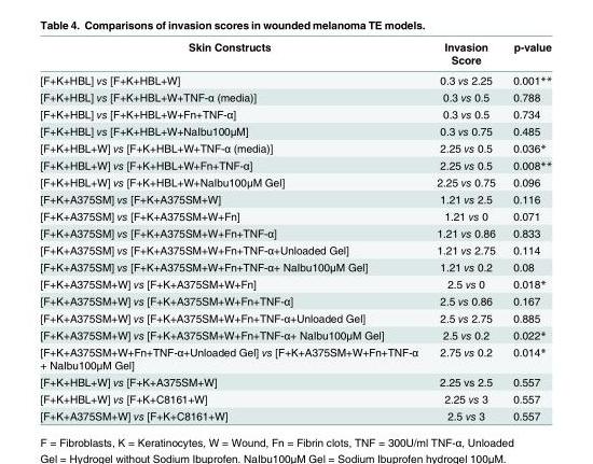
<table><thead><tr><td>Skin Constructs</td><td>Invasion Score</td><td>p-value</td></tr></thead><tbody><tr><td>[F+K+HBL] vs [F+K+HBL+W]</td><td>0.3 vs 2.25</td><td>0.001**</td></tr><tr><td>[F+K+HBL] vs [F+K+HBL+W+TNF-α (media)]</td><td>0.3 vs 0.5</td><td>0.788</td></tr><tr><td>[F+K+HBL] vs [F+K+HBL+W+Fn+TNF-α]</td><td>0.3 vs 0.5</td><td>0.734</td></tr><tr><td>[F+K+HBL] vs [F+K+HBL+W+NaIbu100μM]</td><td>0.3 vs 0.75</td><td>0.485</td></tr><tr><td>[F+K+HBL+W] vs [F+K+HBL+W+TNF-α (media)]</td><td>2.25 vs 0.5</td><td>0.036*</td></tr><tr><td>[F+K+HBL+W] vs [F+K+HBL+W+Fn+TNF-α]</td><td>2.25 vs 0.5</td><td>0.008**</td></tr><tr><td>[F+K+HBL+W] vs [F+K+HBL+W+NaIbu100μM Gel]</td><td>2.25 vs 0.75</td><td>0.096</td></tr><tr><td>[F+K+A375SM] vs [F+K+A375SM+W]</td><td>1.21 vs 2.5</td><td>0.116</td></tr><tr><td>[F+K+A375SM] vs [F+K+A375SM+W+Fn]</td><td>1.21 vs 0</td><td>0.071</td></tr><tr><td>[F+K+A375SM] vs [F+K+A375SM+W+Fn+TNF-α]</td><td>1.21 vs 0.86</td><td>0.833</td></tr><tr><td>[F+K+A375SM] vs [F+K+A375SM+W+Fn+TNF-α+Unloaded Gel]</td><td>1.21 vs 2.75</td><td>0.114</td></tr><tr><td>[F+K+A375SM] vs [F+K+A375SM+W+Fn+TNF-α+ NaIbu100μM Gel]</td><td>1.21 vs 0.2</td><td>0.08</td></tr><tr><td>[F+K+A375SM+W] vs [F+K+A375SM+W+Fn]</td><td>2.5 vs 0</td><td>0.018*</td></tr><tr><td>[F+K+A375SM+W] vs [F+K+A375SM+W+Fn+TNF-α]</td><td>2.5 vs 0.86</td><td>0.167</td></tr><tr><td>[F+K+A375SM+W] vs [F+K+A375SM+W+Fn+TNF-α+Unloaded Gel]</td><td>2.5 vs 2.75</td><td>0.885</td></tr><tr><td>[F+K+A375SM+W] vs [F+K+A375SM+W+Fn+TNF-α+ NaIbu100μM Gel]</td><td>2.5 vs 0.2</td><td>0.022*</td></tr><tr><td>[F+K+A375SM+W+Fn+TNF-α+Unloaded Gel] vs [F+K+A375SM+W+Fn+TNF-α + NaIbu100μM Gel]</td><td>2.75 vs 0.2</td><td>0.014*</td></tr><tr><td>[F+K+HBL+W] vs [F+K+A375SM+W]</td><td>2.25 vs 2.5</td><td>0.557</td></tr><tr><td>[F+K+HBL+W] vs [F+K+C8161+W]</td><td>2.25 vs 3</td><td>0.557</td></tr><tr><td>[F+K+A375SM+W] vs [F+K+C8161+W]</td><td>2.5 vs 3</td><td>0.557</td></tr></tbody></table>